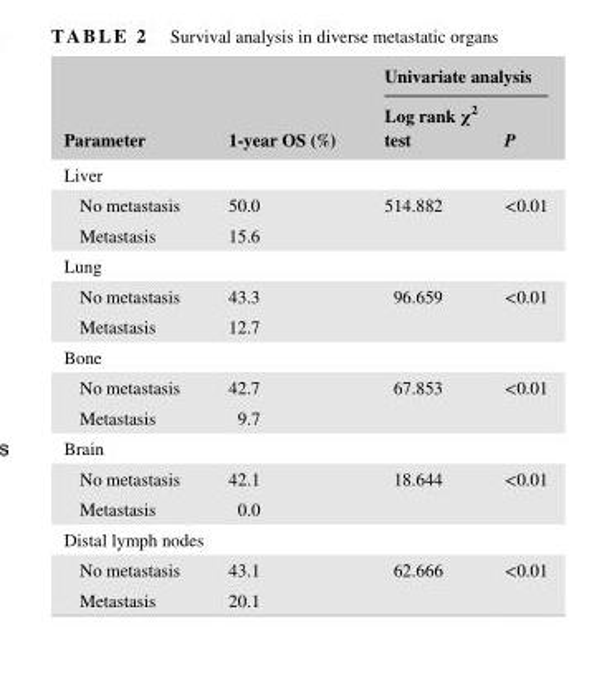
<table><thead><tr><td rowspan="2">Parameter</td><td rowspan="2">1- year OS (%)</td><td colspan="2">Univariate analysis</td></tr><tr><td>Log rank χ<sup>2</sup> test</td><td>P</td></tr></thead><tbody><tr><td colspan="4">Liver</td></tr><tr><td>No metastasis</td><td>50.0</td><td rowspan="2">514.882</td><td rowspan="2">&lt;0.01</td></tr><tr><td>Metastasis</td><td>15.6</td></tr><tr><td colspan="4">Lung</td></tr><tr><td>No metastasis</td><td>43.3</td><td rowspan="2">96.659</td><td rowspan="2">&lt;0.01</td></tr><tr><td>Metastasis</td><td>12.7</td></tr><tr><td colspan="4">Bone</td></tr><tr><td>No metastasis</td><td>42.7</td><td rowspan="2">67.853</td><td rowspan="2">&lt;0.01</td></tr><tr><td>Metastasis</td><td>9.7</td></tr><tr><td colspan="4">Brain</td></tr><tr><td>No metastasis</td><td>42.1</td><td rowspan="2">18.644</td><td rowspan="2">&lt;0.01</td></tr><tr><td>Metastasis</td><td>0.0</td></tr><tr><td colspan="4">Distal lymph nodes</td></tr><tr><td>No metastasis</td><td>43.1</td><td rowspan="2">62.666</td><td rowspan="2">&lt;0.01</td></tr><tr><td>Metastasis</td><td>20.1</td></tr></tbody></table>